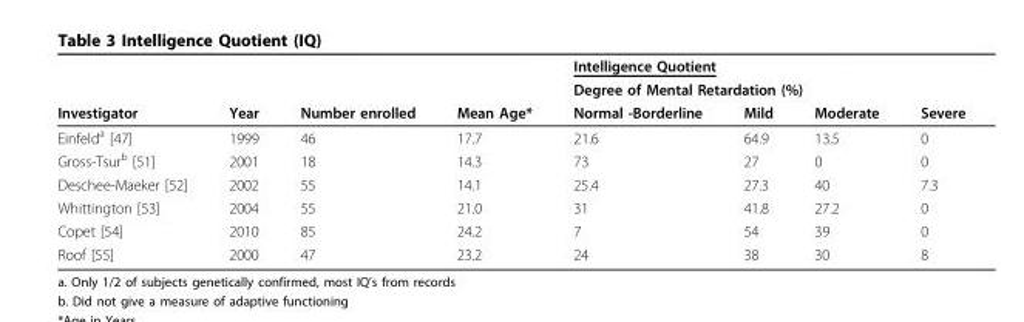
<table><thead><tr><td rowspan="3">Investigator</td><td rowspan="3">Year</td><td rowspan="3">Number enrolled</td><td rowspan="3">Mean Age*</td><td rowspan="2" colspan="4">Intelligence Quotient Degree of Mental Retardation (%)</td></tr><tr></tr><tr><td>Normal -Borderline</td><td>Mild</td><td>Moderate</td><td>Severe</td></tr></thead><tbody><tr><td>Einfeld<sup>a</sup> [47]</td><td>1999</td><td>46</td><td>17.7</td><td>21.6</td><td>64.9</td><td>13.5</td><td>0</td></tr><tr><td>Gross-Tsur<sup>b</sup> [51]</td><td>2001</td><td>18</td><td>14.3</td><td>73</td><td>27</td><td>0</td><td>0</td></tr><tr><td>Deschee-Maeker [52]</td><td>2002</td><td>55</td><td>14.1</td><td>25.4</td><td>27.3</td><td>40</td><td>7.3</td></tr><tr><td>Whittington [53]</td><td>2004</td><td>55</td><td>21.0</td><td>31</td><td>41.8</td><td>27.2</td><td>0</td></tr><tr><td>Copet [54]</td><td>2010</td><td>85</td><td>24.2</td><td>7</td><td>54</td><td>39</td><td>0</td></tr><tr><td>Roof [55]</td><td>2000</td><td>47</td><td>23.2</td><td>24</td><td>38</td><td>30</td><td>8</td></tr></tbody></table>